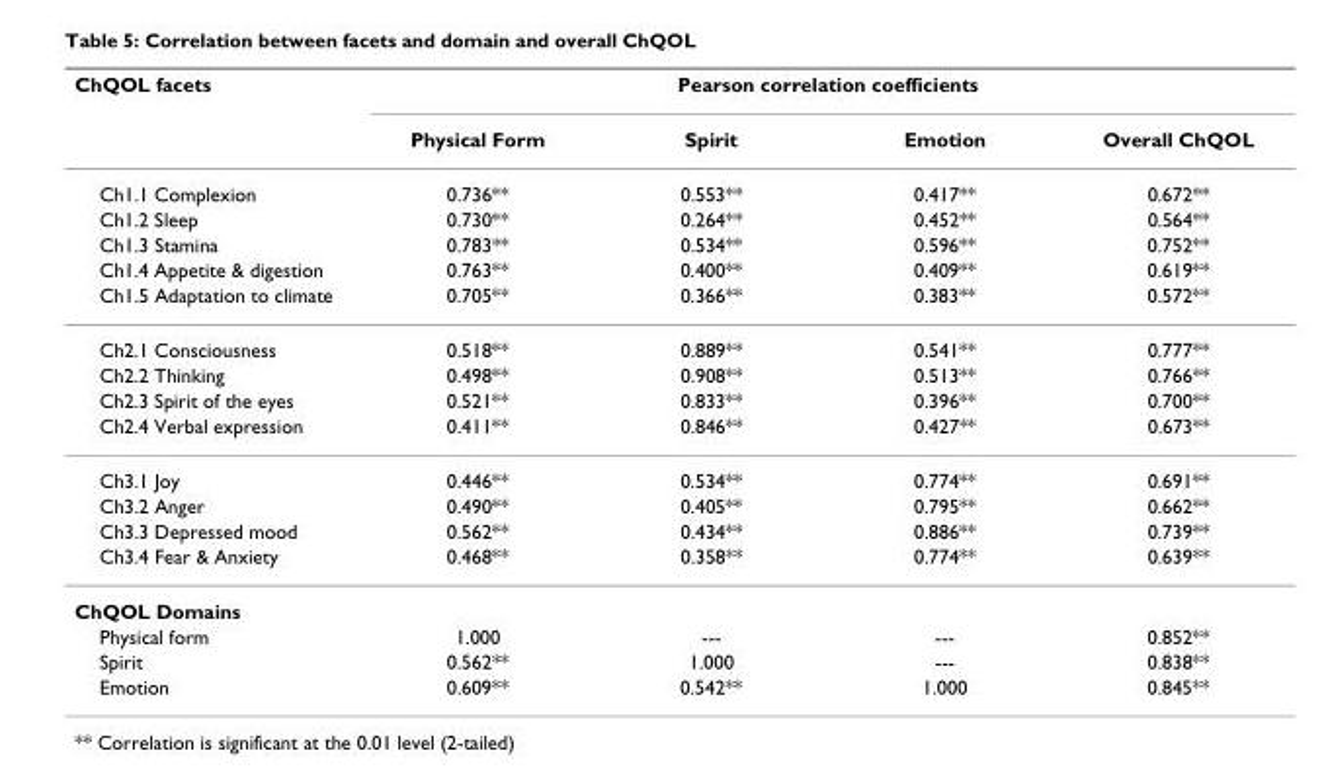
<table><thead><tr><td rowspan="2">ChQOL facets</td><td colspan="4">Pearson correlation coefficients</td></tr><tr><td>Physical Form</td><td>Spirit</td><td>Emotion</td><td>Overall ChQOL</td></tr></thead><tbody><tr><td>Ch1.1 Complexion</td><td>0.736**</td><td>0.553**</td><td>0.417**</td><td>0.672**</td></tr><tr><td>Ch1.2 Sleep</td><td>0.730**</td><td>0.264**</td><td>0.452**</td><td>0.564**</td></tr><tr><td>Ch1.3 Stamina</td><td>0.783**</td><td>0.534**</td><td>0.596**</td><td>0.752**</td></tr><tr><td>Ch1.4 Appetite &amp; digestion</td><td>0.763**</td><td>0.400**</td><td>0.409**</td><td>0.619**</td></tr><tr><td>Ch1.5 Adaptation to climate</td><td>0.705**</td><td>0.366**</td><td>0.383**</td><td>0.572**</td></tr><tr><td>Ch2.1 Consciousness</td><td>0.518**</td><td>0.889**</td><td>0.541**</td><td>0.777**</td></tr><tr><td>Ch2.2 Thinking</td><td>0.498**</td><td>0.908**</td><td>0.513**</td><td>0.766**</td></tr><tr><td>Ch2.3 Spirit of the eyes</td><td>0.521**</td><td>0.833**</td><td>0.396**</td><td>0.700**</td></tr><tr><td>Ch2.4 Verbal expression</td><td>0.411**</td><td>0.846**</td><td>0.427**</td><td>0.673**</td></tr><tr><td>Ch3.1 Joy</td><td>0.446**</td><td>0.534**</td><td>0.774**</td><td>0.691**</td></tr><tr><td>Ch3.2 Anger</td><td>0.490**</td><td>0.405**</td><td>0.795**</td><td>0.662**</td></tr><tr><td>Ch3.3 Depressed mood</td><td>0.562**</td><td>0.434**</td><td>0.886**</td><td>0.739**</td></tr><tr><td>Ch3.4 Fear &amp; Anxiety</td><td>0.468**</td><td>0.358**</td><td>0.774**</td><td>0.639**</td></tr><tr><td colspan="5">ChQOL Domains</td></tr><tr><td>Physical form</td><td>1.000</td><td>---</td><td>---</td><td>0.852**</td></tr><tr><td>Spirit</td><td>0.562**</td><td>1.000</td><td>---</td><td>0.838**</td></tr><tr><td>Emotion</td><td>0.609**</td><td>0.542**</td><td>1.000</td><td>0.845**</td></tr></tbody></table>